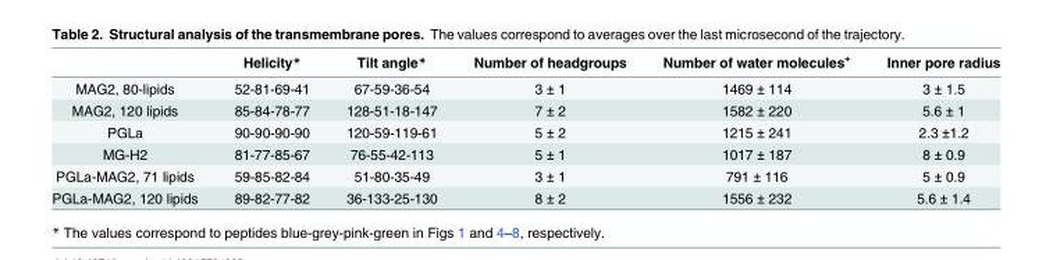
<table><thead><tr><td></td><td>Helicity*</td><td>Tilt angle*</td><td>Number of headgroups</td><td>Number of water molecules<sup>+</sup></td><td>Inner pore radius</td></tr></thead><tbody><tr><td>MAG2, 80-lipids</td><td>52-81-69-41</td><td>67-59-36-54</td><td>3 ± 1</td><td>1469 ± 114</td><td>3 ± 1.5</td></tr><tr><td>MAG2, 120 lipids</td><td>85-84-78-77</td><td>128-51-18-147</td><td>7 ± 2</td><td>1582 ± 220</td><td>5.6 ± 1</td></tr><tr><td>PGLa</td><td>90-90-90-90</td><td>120-59-119-61</td><td>5 ± 2</td><td>1215 ± 241</td><td>2.3 ±1.2</td></tr><tr><td>MG-H2</td><td>81-77-85-67</td><td>76-55-42-113</td><td>5 ± 1</td><td>1017 ± 187</td><td>8 ± 0.9</td></tr><tr><td>PGLa-MAG2, 71 lipids</td><td>59-85-82-84</td><td>51-80-35-49</td><td>3 ± 1</td><td>791 ± 116</td><td>5 ± 0.9</td></tr><tr><td>PGLa-MAG2, 120 lipids</td><td>89-82-77-82</td><td>36-133-25-130</td><td>8 ± 2</td><td>1556 ± 232</td><td>5.6 ± 1.4</td></tr></tbody></table>